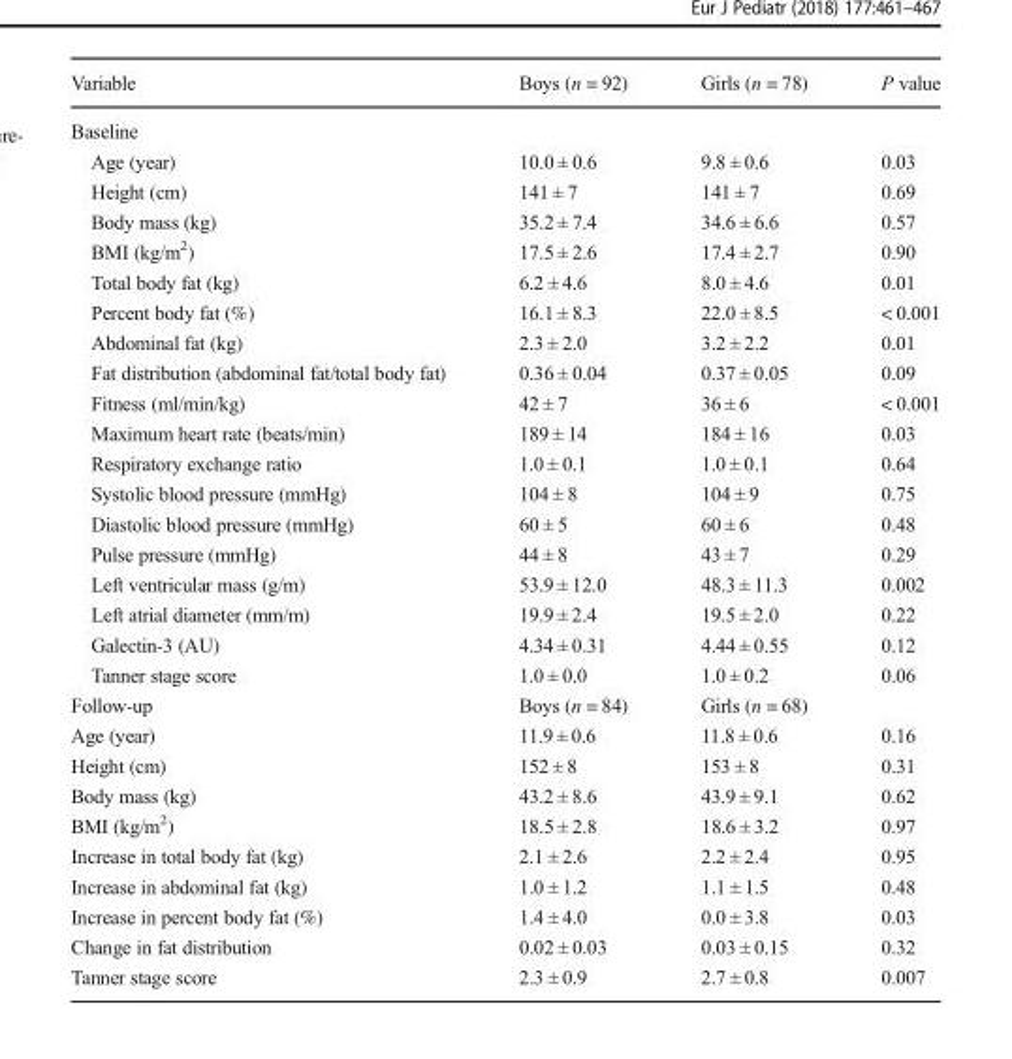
<table><thead><tr><td>Variable</td><td>Boys (n = 92)</td><td>Girls (n = 78)</td><td>P value</td></tr></thead><tbody><tr><td colspan="4">Baseline</td></tr><tr><td>Age (year)</td><td>10.0 ± 0.6</td><td>9.8 ± 0.6</td><td>0.03</td></tr><tr><td>Height (cm)</td><td>141 ± 7</td><td>141 ± 7</td><td>0.69</td></tr><tr><td>Body mass (kg)</td><td>35.2 ± 7.4</td><td>34.6 ± 6.6</td><td>0.57</td></tr><tr><td>BMI (kg/m<sup>2</sup>)</td><td>17.5 ± 2.6</td><td>17.4 ± 2.7</td><td>0.90</td></tr><tr><td>Total body fat (kg)</td><td>6.2 ± 4.6</td><td>8.0 ± 4.6</td><td>0.01</td></tr><tr><td>Percent body fat (%)</td><td>16.1 ± 8.3</td><td>22.0 ± 8.5</td><td>&lt; 0.001</td></tr><tr><td>Abdominal fat (kg)</td><td>2.3 ± 2.0</td><td>3.2 ± 2.2</td><td>0.01</td></tr><tr><td>Fat distribution (abdominal fat/total body fat)</td><td>0.36 ± 0.04</td><td>0.37 ± 0.05</td><td>0.09</td></tr><tr><td>Fitness (ml/min/kg)</td><td>42 ± 7</td><td>36 ± 6</td><td>&lt; 0.001</td></tr><tr><td>Maximum heart rate (beats/min)</td><td>189 ± 14</td><td>184 ± 16</td><td>0.03</td></tr><tr><td>Respiratory exchange ratio</td><td>1.0 ± 0.1</td><td>1.0 ± 0.1</td><td>0.64</td></tr><tr><td>Systolic blood pressure (mmHg)</td><td>104 ± 8</td><td>104 ± 9</td><td>0.75</td></tr><tr><td>Diastolic blood pressure (mmHg)</td><td>60 ± 5</td><td>60 ± 6</td><td>0.48</td></tr><tr><td>Pulse pressure (mmHg)</td><td>44 ± 8</td><td>43 ± 7</td><td>0.29</td></tr><tr><td>Left ventricular mass (g/m)</td><td>53.9 ± 12.0</td><td>48.3 ± 11.3</td><td>0.002</td></tr><tr><td>Left atrial diameter (mm/m)</td><td>19.9 ± 2.4</td><td>19.5 ± 2.0</td><td>0.22</td></tr><tr><td>Galectin-3 (AU)</td><td>4.34 ± 0.31</td><td>4.44 ± 0.55</td><td>0.12</td></tr><tr><td>Tanner stage score</td><td>1.0 ± 0.0</td><td>1.0 ± 0.2</td><td>0.06</td></tr><tr><td>Follow-up</td><td>Boys (n = 84)</td><td>Girls (n = 68)</td><td></td></tr><tr><td>Age (year)</td><td>11.9 ± 0.6</td><td>11.8 ± 0.6</td><td>0.16</td></tr><tr><td>Height (cm)</td><td>152 ± 8</td><td>153 ± 8</td><td>0.31</td></tr><tr><td>Body mass (kg)</td><td>43.2 ± 8.6</td><td>43.9 ± 9.1</td><td>0.62</td></tr><tr><td>BMI (kg/m<sup>2</sup>)</td><td>18.5 ± 2.8</td><td>18.6 ± 3.2</td><td>0.97</td></tr><tr><td>Increase in total body fat (kg)</td><td>2.1 ± 2.6</td><td>2.2 ± 2.4</td><td>0.95</td></tr><tr><td>Increase in abdominal fat (kg)</td><td>1.0 ± 1.2</td><td>1.1 ± 1.5</td><td>0.48</td></tr><tr><td>Increase in percent body fat (%)</td><td>1.4 ± 4.0</td><td>0.0 ± 3.8</td><td>0.03</td></tr><tr><td>Change in fat distribution</td><td>0.02 ± 0.03</td><td>0.03 ± 0.15</td><td>0.32</td></tr><tr><td>Tanner stage score</td><td>2.3 ± 0.9</td><td>2.7 ± 0.8</td><td>0.007</td></tr></tbody></table>